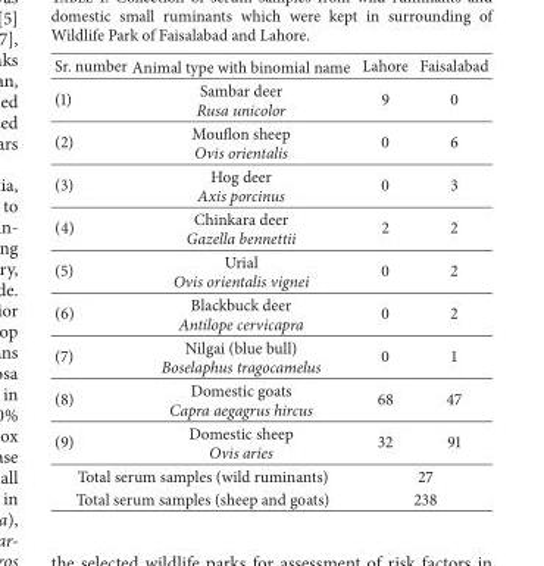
<table><thead><tr><td>Sr. number</td><td>Animal type with binomial name</td><td>Lahore</td><td>Faisalabad</td></tr></thead><tbody><tr><td>(1)</td><td>Sambar deer Rusa unicolor</td><td>9</td><td>0</td></tr><tr><td>(2)</td><td>Mouflon sheep Ovis orientalis</td><td>0</td><td>6</td></tr><tr><td>(3)</td><td>Hog deer Axis porcinus</td><td>0</td><td>3</td></tr><tr><td>(4)</td><td>Chinkara deer Gazella bennettii</td><td>2</td><td>2</td></tr><tr><td>(5)</td><td>Urial Ovis orientalis vignei</td><td>0</td><td>2</td></tr><tr><td>(6)</td><td>Blackbuck deer Antilope cervicapra</td><td>0</td><td>2</td></tr><tr><td>(7)</td><td>Nilgai (blue bull) Boselaphus tragocamelus</td><td>0</td><td>1</td></tr><tr><td>(8)</td><td>Domestic goats Capra aegagrus hircus</td><td>68</td><td>47</td></tr><tr><td>(9)</td><td>Domestic sheep Ovis aries</td><td>32</td><td>91</td></tr><tr><td colspan="2">Total serum samples (wild ruminants)</td><td colspan="2">27</td></tr><tr><td colspan="2">Total serum samples (sheep and goats)</td><td colspan="2">238</td></tr></tbody></table>